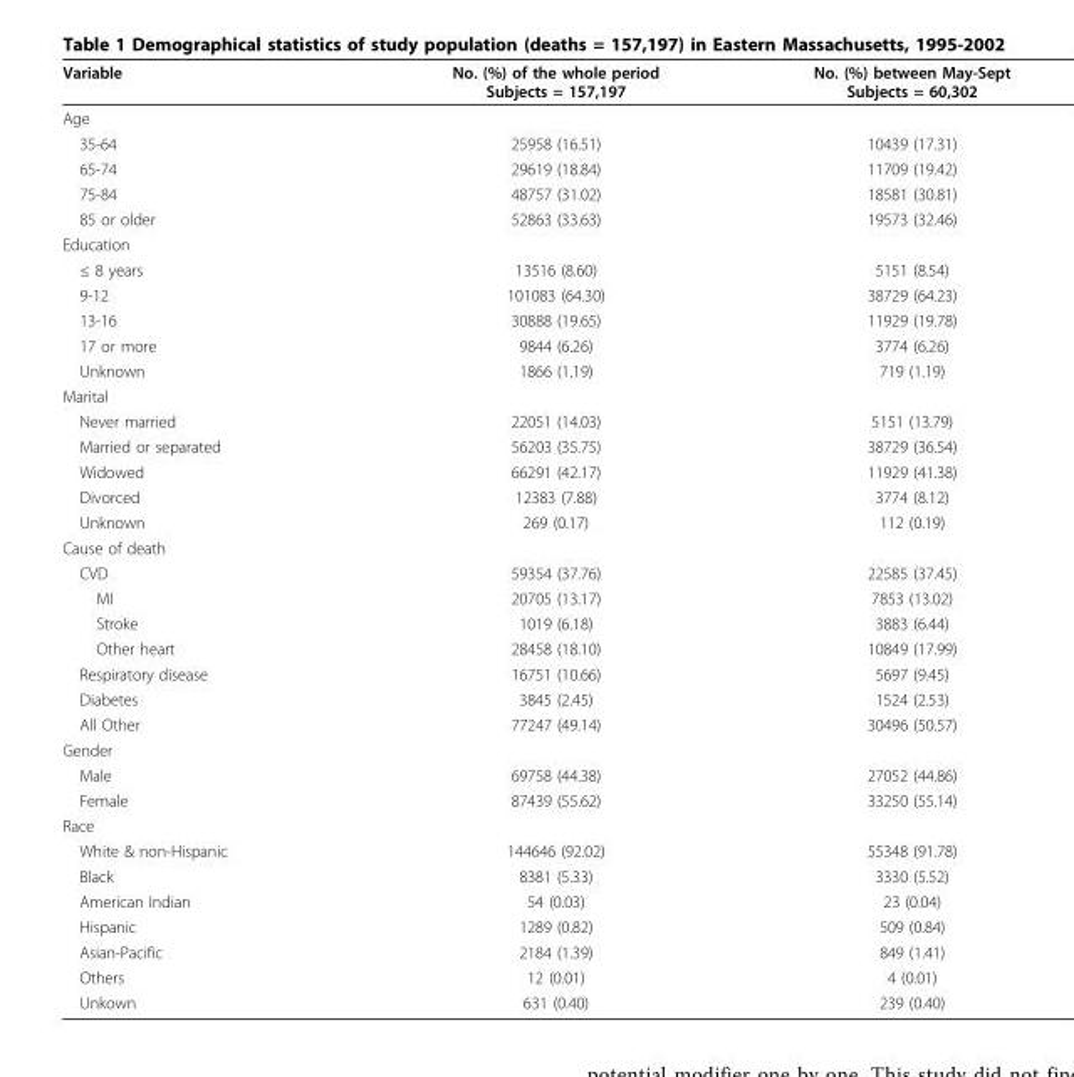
<table><thead><tr><td>Variable</td><td>No. (%) of the whole period Subjects = 157,197</td><td>No. (%) between May-Sept Subjects = 60,302</td></tr></thead><tbody><tr><td colspan="3">Age</td></tr><tr><td>35-64</td><td>25958 (16.51)</td><td>10439 (17.31)</td></tr><tr><td>65-74</td><td>29619 (18.84)</td><td>11709 (19.42)</td></tr><tr><td>75-84</td><td>48757 (31.02)</td><td>18581 (30.81)</td></tr><tr><td>85 or older</td><td>52863 (33.63)</td><td>19573 (32.46)</td></tr><tr><td colspan="3">Education</td></tr><tr><td>≤ 8 years</td><td>13516 (8.60)</td><td>5151 (8.54)</td></tr><tr><td>9-12</td><td>101083 (64.30)</td><td>38729 (64.23)</td></tr><tr><td>13-16</td><td>30888 (19.65)</td><td>11929 (19.78)</td></tr><tr><td>17 or more</td><td>9844 (6.26)</td><td>3774 (6.26)</td></tr><tr><td>Unknown</td><td>1866 (1.19)</td><td>719 (1.19)</td></tr><tr><td colspan="3">Marital</td></tr><tr><td>Never married</td><td>22051 (14.03)</td><td>5151 (13.79)</td></tr><tr><td>Married or separated</td><td>56203 (35.75)</td><td>38729 (36.54)</td></tr><tr><td>Widowed</td><td>66291 (42.17)</td><td>11929 (41.38)</td></tr><tr><td>Divorced</td><td>12383 (7.88)</td><td>3774 (8.12)</td></tr><tr><td>Unknown</td><td>269 (0.17)</td><td>112 (0.19)</td></tr><tr><td colspan="3">Cause of death</td></tr><tr><td>CVD</td><td>59354 (37.76)</td><td>22585 (37.45)</td></tr><tr><td>MI</td><td>20705 (13.17)</td><td>7853 (13.02)</td></tr><tr><td>Stroke</td><td>1019 (6.18)</td><td>3883 (6.44)</td></tr><tr><td>Other heart</td><td>28458 (18.10)</td><td>10849 (17.99)</td></tr><tr><td>Respiratory disease</td><td>16751 (10.66)</td><td>5697 (9.45)</td></tr><tr><td>Diabetes</td><td>3845 (2.45)</td><td>1524 (2.53)</td></tr><tr><td>All Other</td><td>77247 (49.14)</td><td>30496 (50.57)</td></tr><tr><td colspan="3">Gender</td></tr><tr><td>Male</td><td>69758 (44.38)</td><td>27052 (44.86)</td></tr><tr><td>Female</td><td>87439 (55.62)</td><td>33250 (55.14)</td></tr><tr><td colspan="3">Race</td></tr><tr><td>White &amp; non-Hispanic</td><td>144646 (92.02)</td><td>55348 (91.78)</td></tr><tr><td>Black</td><td>8381 (5.33)</td><td>3330 (5.52)</td></tr><tr><td>American Indian</td><td>54 (0.03)</td><td>23 (0.04)</td></tr><tr><td>Hispanic</td><td>1289 (0.82)</td><td>509 (0.84)</td></tr><tr><td>Asian-Pacific</td><td>2184 (1.39)</td><td>849 (1.41)</td></tr><tr><td>Others</td><td>12 (0.01)</td><td>4 (0.01)</td></tr><tr><td>Unkown</td><td>631 (0.40)</td><td>239 (0.40)</td></tr></tbody></table>